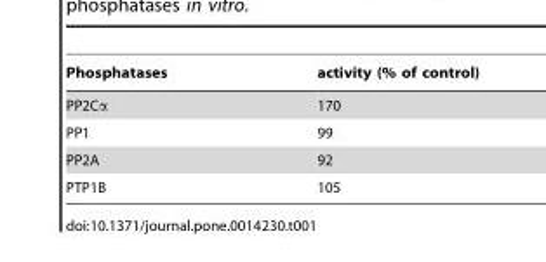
<table><thead><tr><td>Phosphatases</td><td>activity (% of control)</td></tr></thead><tbody><tr><td>PP2Cα</td><td>170</td></tr><tr><td>PP1</td><td>99</td></tr><tr><td>PP2A</td><td>92</td></tr><tr><td>PTP1B</td><td>105</td></tr></tbody></table>